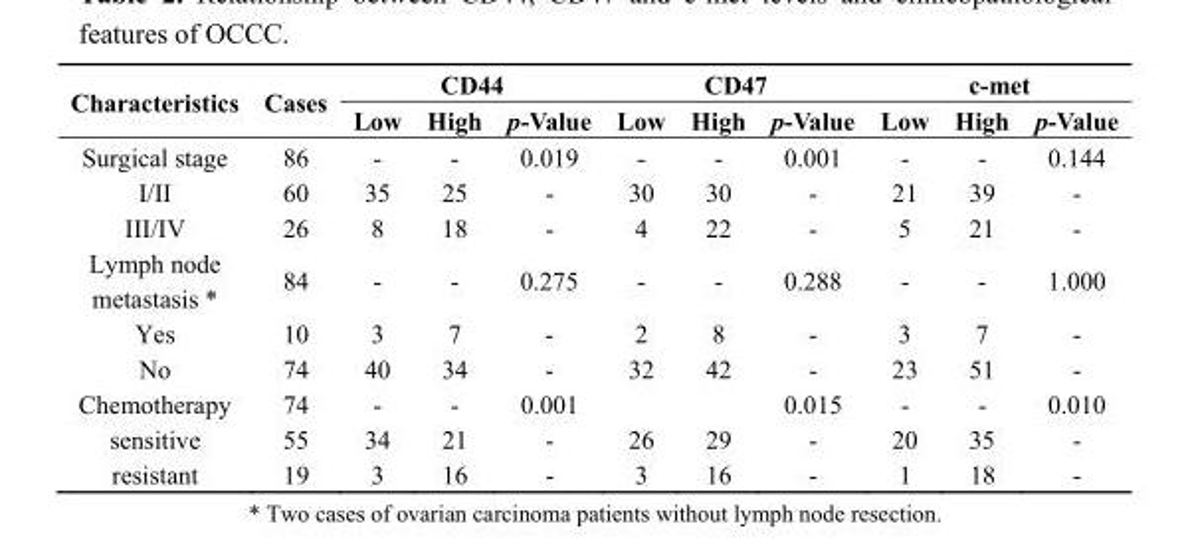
<table><thead><tr><td rowspan="2">Characteristics</td><td rowspan="2">Cases</td><td colspan="3">CD44</td><td colspan="3">CD47</td><td colspan="3">c-met</td></tr><tr><td>Low</td><td>High</td><td>p-Value</td><td>Low</td><td>High</td><td>p-Value</td><td>Low</td><td>High</td><td>p-Value</td></tr></thead><tbody><tr><td>Surgical stage</td><td>86</td><td>-</td><td>-</td><td>0.019</td><td>-</td><td>-</td><td>0.001</td><td>-</td><td>-</td><td>0.144</td></tr><tr><td>I/II</td><td>60</td><td>35</td><td>25</td><td>-</td><td>30</td><td>30</td><td>-</td><td>21</td><td>39</td><td>-</td></tr><tr><td>III/IV</td><td>26</td><td>8</td><td>18</td><td>-</td><td>4</td><td>22</td><td>-</td><td>5</td><td>21</td><td>-</td></tr><tr><td>Lymph node metastasis *</td><td>84</td><td>-</td><td>-</td><td>0.275</td><td>-</td><td>-</td><td>0.288</td><td>-</td><td>-</td><td>1.000</td></tr><tr><td>Yes</td><td>10</td><td>3</td><td>7</td><td>-</td><td>2</td><td>8</td><td>-</td><td>3</td><td>7</td><td>-</td></tr><tr><td>No</td><td>74</td><td>40</td><td>34</td><td>-</td><td>32</td><td>42</td><td>-</td><td>23</td><td>51</td><td>-</td></tr><tr><td>Chemotherapy</td><td>74</td><td>-</td><td>-</td><td>0.001</td><td></td><td></td><td>0.015</td><td>-</td><td>-</td><td>0.010</td></tr><tr><td>sensitive</td><td>55</td><td>34</td><td>21</td><td>-</td><td>26</td><td>29</td><td>-</td><td>20</td><td>35</td><td>-</td></tr><tr><td>resistant</td><td>19</td><td>3</td><td>16</td><td>-</td><td>3</td><td>16</td><td>-</td><td>1</td><td>18</td><td>-</td></tr></tbody></table>